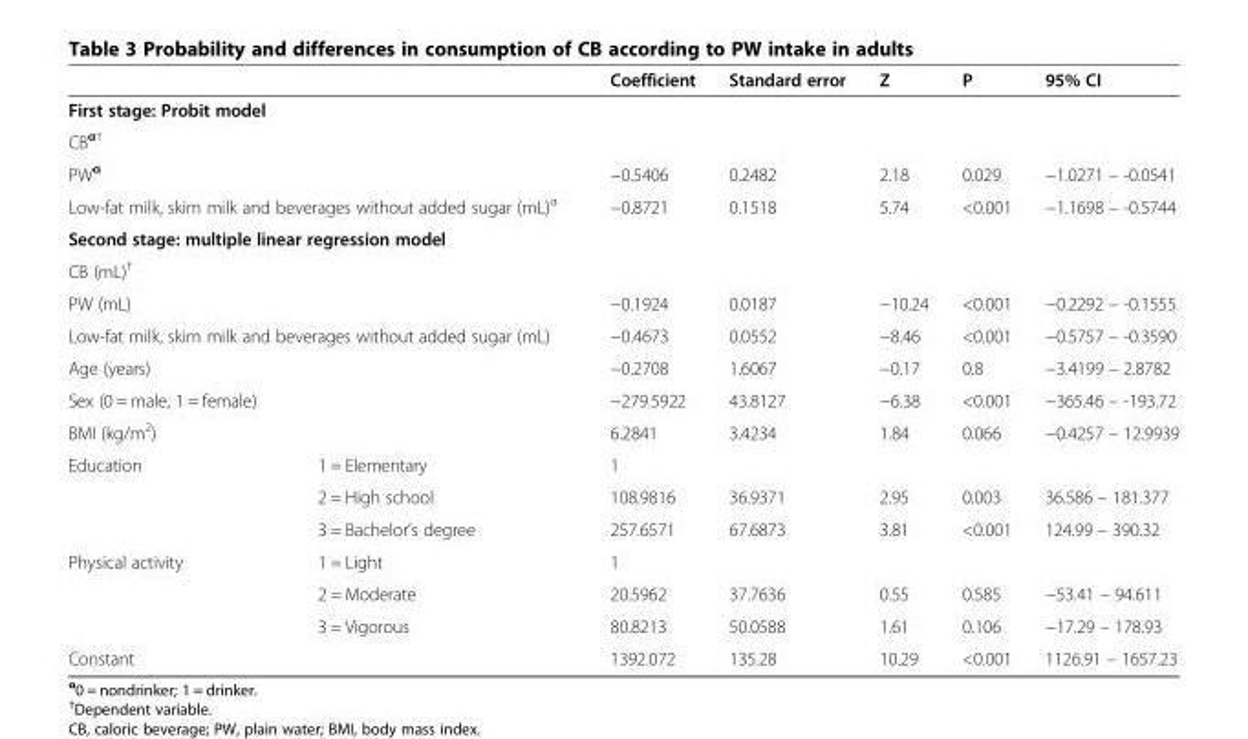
<table><thead><tr><td></td><td></td><td>Coefficient</td><td>Standard error</td><td>Z</td><td>P</td><td>95% CI</td></tr></thead><tbody><tr><td colspan="7">First stage: Probit model</td></tr><tr><td colspan="7">CB<sup>α†</sup></td></tr><tr><td colspan="2">PW<sup>α</sup></td><td>−0.5406</td><td>0.2482</td><td>2.18</td><td>0.029</td><td>−1.0271 – -0.0541</td></tr><tr><td colspan="2">Low-fat milk, skim milk and beverages without added sugar (mL)<sup>α</sup></td><td>−0.8721</td><td>0.1518</td><td>5.74</td><td>&lt;0.001</td><td>−1.1698 – -0.5744</td></tr><tr><td colspan="7">Second stage: multiple linear regression model</td></tr><tr><td colspan="7">CB (mL)<sup>†</sup></td></tr><tr><td colspan="2">PW (mL)</td><td>−0.1924</td><td>0.0187</td><td>−10.24</td><td>&lt;0.001</td><td>−0.2292 – -0.1555</td></tr><tr><td colspan="2">Low-fat milk, skim milk and beverages without added sugar (mL)</td><td>−0.4673</td><td>0.0552</td><td>−8.46</td><td>&lt;0.001</td><td>−0.5757 – -0.3590</td></tr><tr><td colspan="2">Age (years)</td><td>−0.2708</td><td>1.6067</td><td>−0.17</td><td>0.8</td><td>−3.4199 – 2.8782</td></tr><tr><td colspan="2">Sex (0 = male, 1 = female)</td><td>−279.5922</td><td>43.8127</td><td>−6.38</td><td>&lt;0.001</td><td>−365.46 – -193.72</td></tr><tr><td colspan="2">BMI (kg/m<sup>2</sup>)</td><td>6.2841</td><td>3.4234</td><td>1.84</td><td>0.066</td><td>−0.4257 – 12.9939</td></tr><tr><td rowspan="3">Education</td><td>1 = Elementary</td><td>1</td><td></td><td></td><td></td><td></td></tr><tr><td>2 = High school</td><td>108.9816</td><td>36.9371</td><td>2.95</td><td>0.003</td><td>36.586 – 181.377</td></tr><tr><td>3 = Bachelor’s degree</td><td>257.6571</td><td>67.6873</td><td>3.81</td><td>&lt;0.001</td><td>124.99 – 390.32</td></tr><tr><td rowspan="3">Physical activity</td><td>1 = Light</td><td>1</td><td></td><td></td><td></td><td></td></tr><tr><td>2 = Moderate</td><td>20.5962</td><td>37.7636</td><td>0.55</td><td>0.585</td><td>−53.41 – 94.611</td></tr><tr><td>3 = Vigorous</td><td>80.8213</td><td>50.0588</td><td>1.61</td><td>0.106</td><td>−17.29 – 178.93</td></tr><tr><td colspan="2">Constant</td><td>1392.072</td><td>135.28</td><td>10.29</td><td>&lt;0.001</td><td>1126.91 – 1657.23</td></tr></tbody></table>